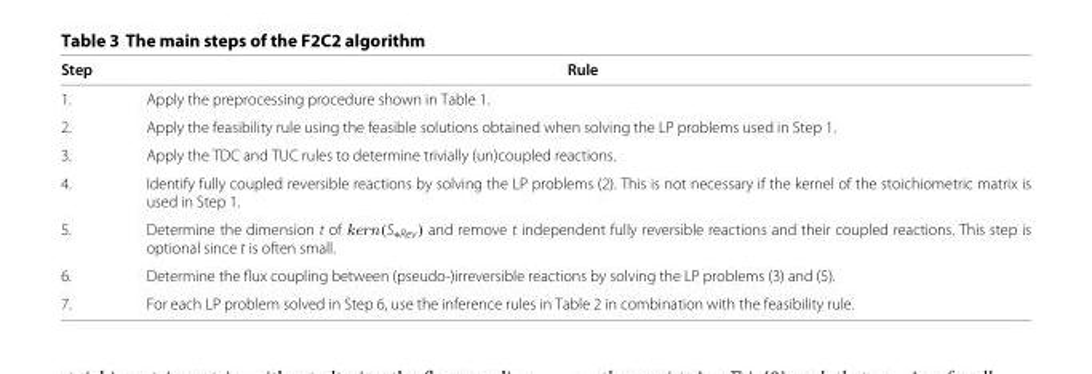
<table><thead><tr><td>Step</td><td>Rule</td></tr></thead><tbody><tr><td>1.</td><td>Apply the preprocessing procedure shown in Table 1.</td></tr><tr><td>2.</td><td>Apply the feasibility rule using the feasible solutions obtained when solving the LP problems used in Step 1.</td></tr><tr><td>3.</td><td>Apply the TDC and TUC rules to determine trivially (un)coupled reactions.</td></tr><tr><td>4.</td><td>Identify fully coupled reversible reactions by solving the LP problems (2). This is not necessary if the kernel of the stoichiometric matrix is used in Step 1.</td></tr><tr><td>5.</td><td>Determine the dimension t of kern(S<sub>∗Rev</sub>) and remove t independent fully reversible reactions and their coupled reactions. This step is optional since t is often small.</td></tr><tr><td>6.</td><td>Determine the flux coupling between (pseudo-)irreversible reactions by solving the LP problems (3) and (5).</td></tr><tr><td>7.</td><td>For each LP problem solved in Step 6, use the inference rules in Table 2 in combination with the feasibility rule.</td></tr></tbody></table>